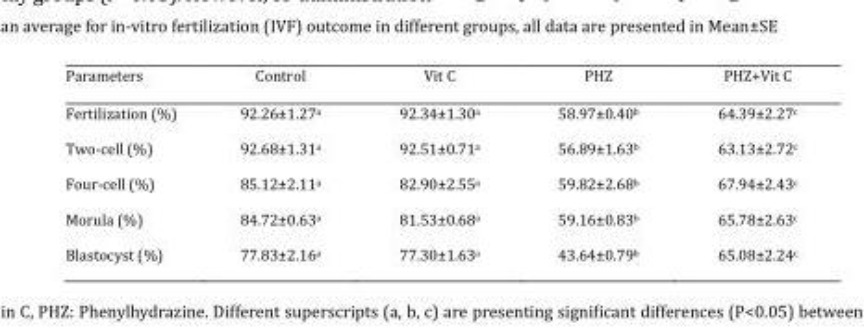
<table><thead><tr><td>Parameters</td><td>Control</td><td>Vit C</td><td>PHZ</td><td>PHZ+Vit C</td></tr></thead><tbody><tr><td>Fertilization (%)</td><td>92.26±1.27<sup>a</sup></td><td>92.34±1.30<sup>a</sup></td><td>58.97±0.40<sup>b</sup></td><td>64.39±2.27<sup>c</sup></td></tr><tr><td>Two-cell (%)</td><td>92.68±1.31<sup>a</sup></td><td>92.51±0.71<sup>a</sup></td><td>56.89±1.63<sup>b</sup></td><td>63.13±2.72<sup>c</sup></td></tr><tr><td>Four-cell (%)</td><td>85.12±2.11<sup>a</sup></td><td>82.90±2.55<sup>a</sup></td><td>59.82±2.68<sup>b</sup></td><td>67.94±2.43<sup>c</sup></td></tr><tr><td>Morula (%)</td><td>84.72±0.63<sup>a</sup></td><td>81.53±0.68<sup>a</sup></td><td>59.16±0.83<sup>b</sup></td><td>65.78±2.63<sup>c</sup></td></tr><tr><td>Blastocyst (%)</td><td>77.83±2.16<sup>a</sup></td><td>77.30±1.63<sup>a</sup></td><td>43.64±0.79<sup>b</sup></td><td>65.08±2.24<sup>c</sup></td></tr></tbody></table>